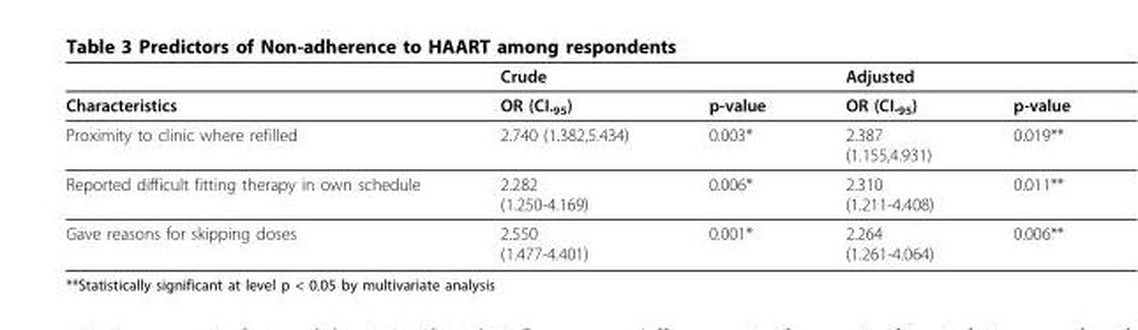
<table><thead><tr><td rowspan="2">Characteristics</td><td colspan="2">Crude</td><td colspan="2">Adjusted</td></tr><tr><td>OR (CI.<sub>95</sub>)</td><td>p-value</td><td>OR (CI.<sub>95</sub>)</td><td>p-value</td></tr></thead><tbody><tr><td>Proximity to clinic where refilled</td><td>2.740 (1.382,5.434)</td><td>0.003*</td><td>2.387 (1.155,4.931)</td><td>0.019**</td></tr><tr><td>Reported difficult fitting therapy in own schedule</td><td>2.282 (1.250-4.169)</td><td>0.006*</td><td>2.310 (1.211-4.408)</td><td>0.011**</td></tr><tr><td>Gave reasons for skipping doses</td><td>2.550 (1.477-4.401)</td><td>0.001*</td><td>2.264 (1.261-4.064)</td><td>0.006**</td></tr></tbody></table>